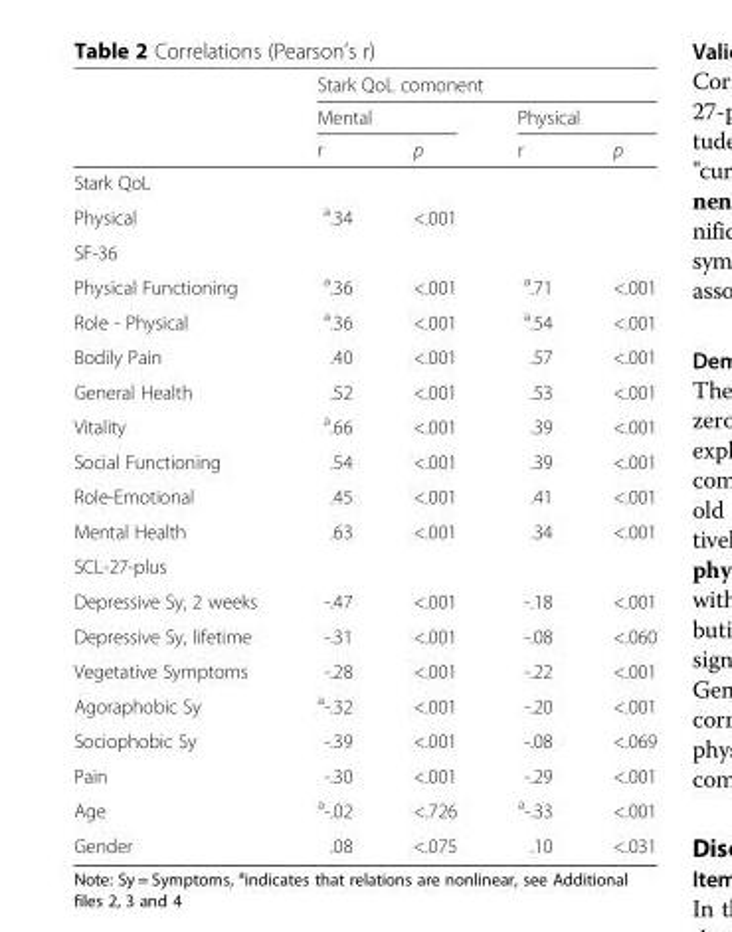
<table><thead><tr><td rowspan="3"></td><td colspan="4">Stark QoL comonent</td></tr><tr><td colspan="2">Mental</td><td colspan="2">Physical</td></tr><tr><td>r</td><td>p</td><td>r</td><td>p</td></tr></thead><tbody><tr><td colspan="5">Stark QoL</td></tr><tr><td>Physical</td><td><sup>a</sup>.34</td><td>&lt;.001</td><td></td><td></td></tr><tr><td colspan="5">SF-36</td></tr><tr><td>Physical Functioning</td><td><sup>a</sup>.36</td><td>&lt;.001</td><td><sup>a</sup>.71</td><td>&lt;.001</td></tr><tr><td>Role - Physical</td><td><sup>a</sup>.36</td><td>&lt;.001</td><td><sup>a</sup>.54</td><td>&lt;.001</td></tr><tr><td>Bodily Pain</td><td>.40</td><td>&lt;.001</td><td>.57</td><td>&lt;.001</td></tr><tr><td>General Health</td><td>.52</td><td>&lt;.001</td><td>.53</td><td>&lt;.001</td></tr><tr><td>Vitality</td><td><sup>a</sup>.66</td><td>&lt;.001</td><td>.39</td><td>&lt;.001</td></tr><tr><td>Social Functioning</td><td>.54</td><td>&lt;.001</td><td>.39</td><td>&lt;.001</td></tr><tr><td>Role-Emotional</td><td>.45</td><td>&lt;.001</td><td>.41</td><td>&lt;.001</td></tr><tr><td>Mental Health</td><td>.63</td><td>&lt;.001</td><td>.34</td><td>&lt;.001</td></tr><tr><td colspan="5">SCL-27-plus</td></tr><tr><td>Depressive Sy, 2 weeks</td><td>-.47</td><td>&lt;.001</td><td>-.18</td><td>&lt;.001</td></tr><tr><td>Depressive Sy, lifetime</td><td>-.31</td><td>&lt;.001</td><td>-.08</td><td>&lt;.060</td></tr><tr><td>Vegetative Symptoms</td><td>-.28</td><td>&lt;.001</td><td>-.22</td><td>&lt;.001</td></tr><tr><td>Agoraphobic Sy</td><td><sup>a</sup>-.32</td><td>&lt;.001</td><td>-.20</td><td>&lt;.001</td></tr><tr><td>Sociophobic Sy</td><td>-.39</td><td>&lt;.001</td><td>-.08</td><td>&lt;.069</td></tr><tr><td>Pain</td><td>-.30</td><td>&lt;.001</td><td>-.29</td><td>&lt;.001</td></tr><tr><td>Age</td><td><sup>a</sup>-.02</td><td>&lt;.726</td><td><sup>a</sup>-.33</td><td>&lt;.001</td></tr><tr><td>Gender</td><td>.08</td><td>&lt;.075</td><td>.10</td><td>&lt;.031</td></tr></tbody></table>